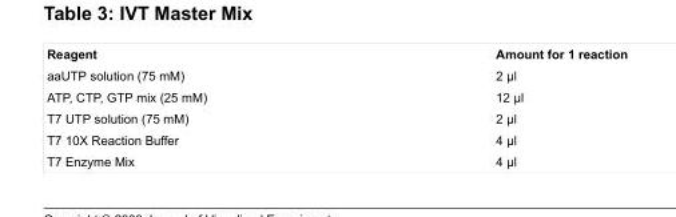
<table><tbody><tr><td>Reagent</td><td>Amount for 1 reaction</td></tr><tr><td>aaUTP solution (75 mM)</td><td>2 µl</td></tr><tr><td>ATP, CTP, GTP mix (25 mM)</td><td>12 µl</td></tr><tr><td>T7 UTP solution (75 mM)</td><td>2 µl</td></tr><tr><td>T7 10X Reaction Buffer</td><td>4 µl</td></tr><tr><td>T7 Enzyme Mix</td><td>4 µl</td></tr></tbody></table>